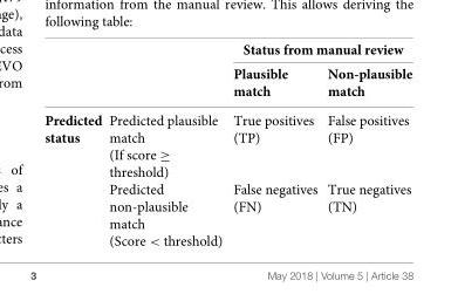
<table><thead><tr><td rowspan="2"></td><td rowspan="2"></td><td colspan="2">Status from manual review</td></tr><tr><td>Plausible match</td><td>Non-plausible match</td></tr></thead><tbody><tr><td rowspan="2">Predicted status</td><td>Predicted plausible match (If score ≥ threshold)</td><td>True positives (TP)</td><td>False positives (FP)</td></tr><tr><td>Predicted non-plausible match (Score &lt; threshold)</td><td>False negatives (FN)</td><td>True negatives (TN)</td></tr></tbody></table>